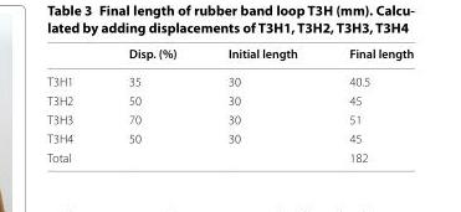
<table><thead><tr><td></td><td>Disp. (%)</td><td>Initial length</td><td>Final length</td></tr></thead><tbody><tr><td>T3H1</td><td>35</td><td>30</td><td>40.5</td></tr><tr><td>T3H2</td><td>50</td><td>30</td><td>45</td></tr><tr><td>T3H3</td><td>70</td><td>30</td><td>51</td></tr><tr><td>T3H4</td><td>50</td><td>30</td><td>45</td></tr><tr><td>Total</td><td></td><td></td><td>182</td></tr></tbody></table>